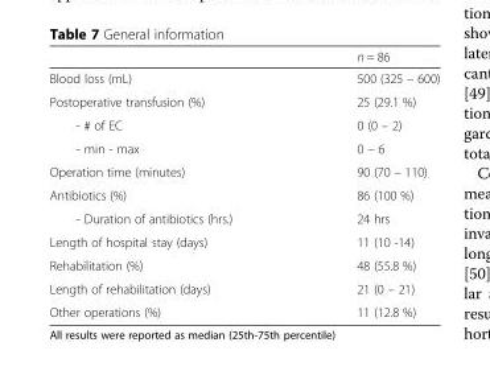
<table><thead><tr><td></td><td>n = 86</td></tr></thead><tbody><tr><td>Blood loss (mL)</td><td>500 (325 – 600)</td></tr><tr><td>Postoperative transfusion (%)</td><td>25 (29.1 %)</td></tr><tr><td>- # of EC</td><td>0 (0 – 2)</td></tr><tr><td>- min - max</td><td>0 – 6</td></tr><tr><td>Operation time (minutes)</td><td>90 (70 – 110)</td></tr><tr><td>Antibiotics (%)</td><td>86 (100 %)</td></tr><tr><td>- Duration of antibiotics (hrs.)</td><td>24 hrs</td></tr><tr><td>Length of hospital stay (days)</td><td>11 (10 -14)</td></tr><tr><td>Rehabilitation (%)</td><td>48 (55.8 %)</td></tr><tr><td>Length of rehabilitation (days)</td><td>21 (0 – 21)</td></tr><tr><td>Other operations (%)</td><td>11 (12.8 %)</td></tr></tbody></table>